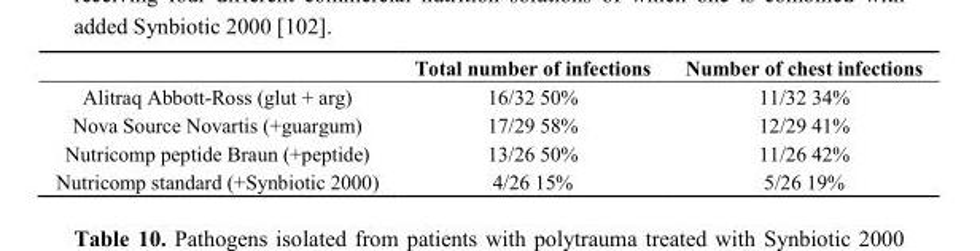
<table><thead><tr><td></td><td>Total number of infections</td><td>Number of chest infections</td></tr></thead><tbody><tr><td>Alitraq Abbott-Ross (glut + arg)</td><td>16/32 50%</td><td>11/32 34%</td></tr><tr><td>Nova Source Novartis (+guargum)</td><td>17/29 58%</td><td>12/29 41%</td></tr><tr><td>Nutricomp peptide Braun (+peptide)</td><td>13/26 50%</td><td>11/26 42%</td></tr><tr><td>Nutricomp standard (+Synbiotic 2000)</td><td>4/26 15%</td><td>5/26 19%</td></tr></tbody></table>